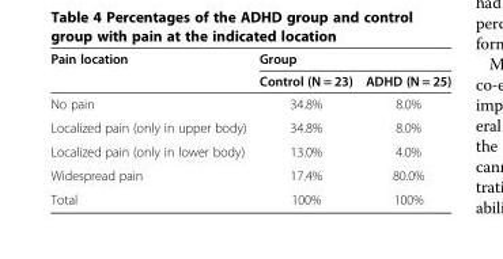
<table><thead><tr><td rowspan="2">Pain location</td><td colspan="2">Group</td></tr><tr><td>Control (N = 23)</td><td>ADHD (N = 25)</td></tr></thead><tbody><tr><td>No pain</td><td>34.8%</td><td>8.0%</td></tr><tr><td>Localized pain (only in upper body)</td><td>34.8%</td><td>8.0%</td></tr><tr><td>Localized pain (only in lower body)</td><td>13.0%</td><td>4.0%</td></tr><tr><td>Widespread pain</td><td>17.4%</td><td>80.0%</td></tr><tr><td>Total</td><td>100%</td><td>100%</td></tr></tbody></table>